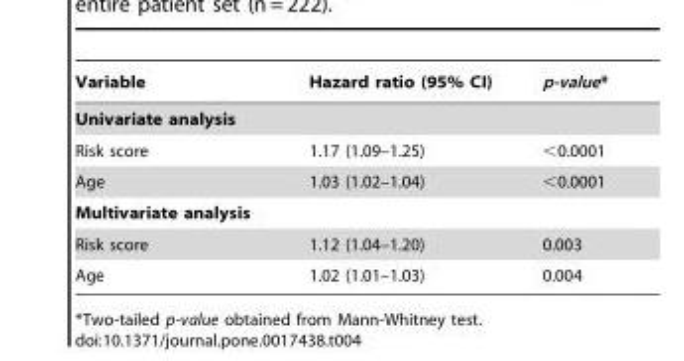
<table><thead><tr><td>Variable</td><td>Hazard ratio (95% CI)</td><td>p-value*</td></tr></thead><tbody><tr><td colspan="3">Univariate analysis</td></tr><tr><td>Risk score</td><td>1.17 (1.09–1.25)</td><td>&lt;0.0001</td></tr><tr><td>Age</td><td>1.03 (1.02–1.04)</td><td>&lt;0.0001</td></tr><tr><td colspan="3">Multivariate analysis</td></tr><tr><td>Risk score</td><td>1.12 (1.04–1.20)</td><td>0.003</td></tr><tr><td>Age</td><td>1.02 (1.01–1.03)</td><td>0.004</td></tr></tbody></table>